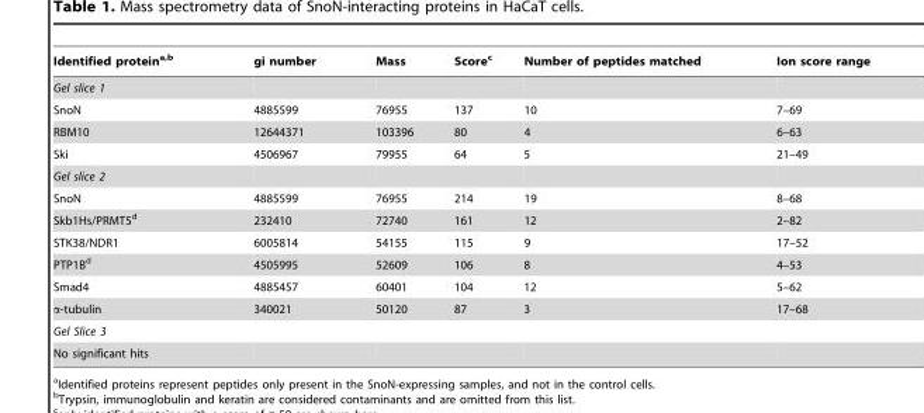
<table><thead><tr><td>Identified proteina,b</td><td>gi number</td><td>Mass</td><td>Score<sup>c</sup></td><td>Number of peptides matched</td><td>Ion score range</td></tr></thead><tbody><tr><td colspan="6">Gel slice 1</td></tr><tr><td>SnoN</td><td>4885599</td><td>76955</td><td>137</td><td>10</td><td>7–69</td></tr><tr><td>RBM10</td><td>12644371</td><td>103396</td><td>80</td><td>4</td><td>6–63</td></tr><tr><td>Ski</td><td>4506967</td><td>79955</td><td>64</td><td>5</td><td>21–49</td></tr><tr><td colspan="6">Gel slice 2</td></tr><tr><td>SnoN</td><td>4885599</td><td>76955</td><td>214</td><td>19</td><td>8–68</td></tr><tr><td>Skb1Hs/PRMT5<sup>d</sup></td><td>232410</td><td>72740</td><td>161</td><td>12</td><td>2–82</td></tr><tr><td>STK38/NDR1</td><td>6005814</td><td>54155</td><td>115</td><td>9</td><td>17–52</td></tr><tr><td>PTP1B<sup>d</sup></td><td>4505995</td><td>52609</td><td>106</td><td>8</td><td>4–53</td></tr><tr><td>Smad4</td><td>4885457</td><td>60401</td><td>104</td><td>12</td><td>5–62</td></tr><tr><td>α-tubulin</td><td>340021</td><td>50120</td><td>87</td><td>3</td><td>17–68</td></tr><tr><td colspan="6">Gel Slice 3</td></tr><tr><td>No significant hits</td><td></td><td></td><td></td><td></td><td></td></tr></tbody></table>